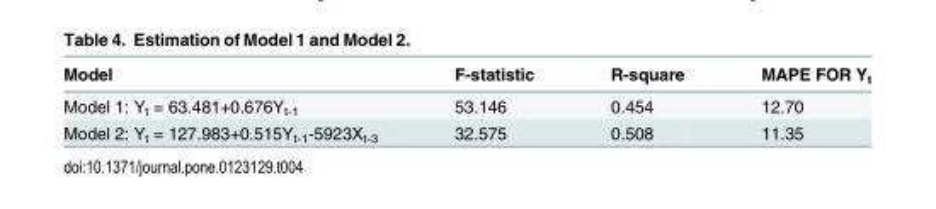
<table><thead><tr><td>Model</td><td>F-statistic</td><td>R-square</td><td>MAPE FOR Y<sub>t</sub></td></tr></thead><tbody><tr><td>Model 1: Y<sub>t</sub> = 63.481+0.676Y<sub>t-1</sub></td><td>53.146</td><td>0.454</td><td>12.70</td></tr><tr><td>Model 2: Y<sub>t</sub> = 127.983+0.515Y<sub>t-1</sub>-5923X<sub>t-3</sub></td><td>32.575</td><td>0.508</td><td>11.35</td></tr></tbody></table>